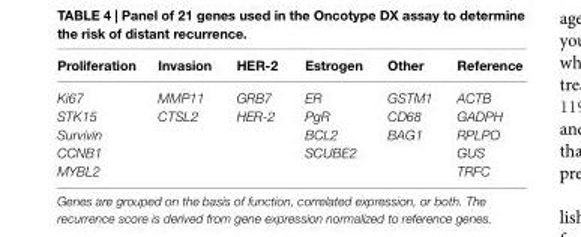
<table><thead><tr><td>Proliferation</td><td>invasion</td><td>HeR-2</td><td>estrogen</td><td>Other</td><td>Reference</td></tr></thead><tbody><tr><td>Ki67</td><td>MMP11</td><td>GRB7</td><td>ER</td><td>GSTM1</td><td>ACTB</td></tr><tr><td>STK15</td><td>CTSL2</td><td>HER-2</td><td>PgR</td><td>CD68</td><td>GADPH</td></tr><tr><td>Survivin</td><td></td><td></td><td>BCL2</td><td>BAG1</td><td>RPLPO</td></tr><tr><td>CCNB1</td><td></td><td></td><td>SCUBE2</td><td></td><td>GUS</td></tr><tr><td>MYBL2</td><td></td><td></td><td></td><td></td><td>TRFC</td></tr></tbody></table>